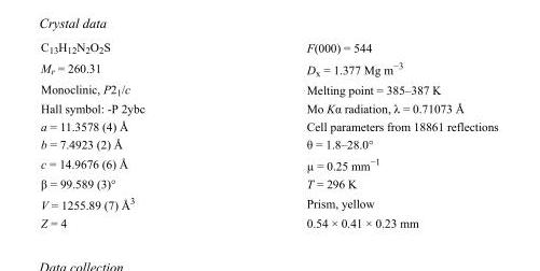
<table><tbody><tr><td>C<sub>13</sub>H<sub>12</sub>N<sub>2</sub>O<sub>2</sub>S</td><td>F(000) = 544</td></tr><tr><td>M<sub>r</sub> = 260.31</td><td>D<sub>x</sub> = 1.377 Mg m<sup>−3</sup></td></tr><tr><td>Monoclinic, P2<sub>1</sub>/c</td><td>Melting point = 385–387 K</td></tr><tr><td>Hall symbol: -P 2ybc</td><td>Mo Kα radiation, λ = 0.71073 Å</td></tr><tr><td>a = 11.3578 (4) Å</td><td>Cell parameters from 18861 reflections</td></tr><tr><td>b = 7.4923 (2) Å</td><td>θ = 1.8–28.0°</td></tr><tr><td>c = 14.9676 (6) Å</td><td>µ = 0.25 mm<sup>−1</sup></td></tr><tr><td>β = 99.589 (3)°</td><td>T = 296 K</td></tr><tr><td>V = 1255.89 (7) Å<sup>3</sup></td><td>Prism, yellow</td></tr><tr><td>Z = 4</td><td>0.54 × 0.41 × 0.23 mm</td></tr></tbody></table>